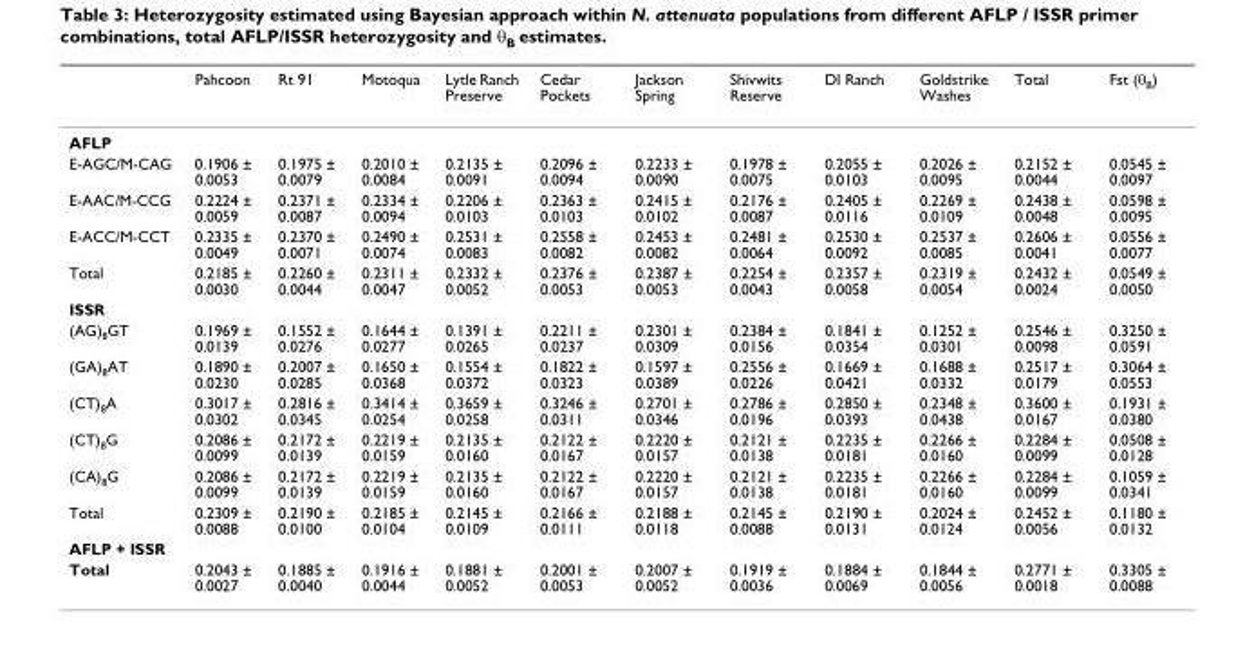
<table><thead><tr><td></td><td>Pahcoon</td><td>Rt 91</td><td>Motoqua</td><td>Lytle Ranch Preserve</td><td>Cedar Pockets</td><td>Jackson Spring</td><td>Shivwits Reserve</td><td>DI Ranch</td><td>Goldstrike Washes</td><td>Total</td><td>Fst (θ<sub>B</sub>)</td></tr></thead><tbody><tr><td colspan="12">AFLP</td></tr><tr><td>E-AGC/M-CAG</td><td>0.1906 ± 0.0053</td><td>0.1975 ± 0.0079</td><td>0.2010 ± 0.0084</td><td>0.2135 ± 0.0091</td><td>0.2096 ± 0.0094</td><td>0.2233 ± 0.0090</td><td>0.1978 ± 0.0075</td><td>0.2055 ± 0.0103</td><td>0.2026 ± 0.0095</td><td>0.2152 ± 0.0044</td><td>0.0545 ± 0.0097</td></tr><tr><td>E-AAC/M-CCG</td><td>0.2224 ± 0.0059</td><td>0.2371 ± 0.0087</td><td>0.2334 ± 0.0094</td><td>0.2206 ± 0.0103</td><td>0.2363 ± 0.0103</td><td>0.2415 ± 0.0102</td><td>0.2176 ± 0.0087</td><td>0.2405 ± 0.0116</td><td>0.2269 ± 0.0109</td><td>0.2438 ± 0.0048</td><td>0.0598 ± 0.0095</td></tr><tr><td>E-ACC/M-CCT</td><td>0.2335 ± 0.0049</td><td>0.2370 ± 0.0071</td><td>0.2490 ± 0.0074</td><td>0.2531 ± 0.0083</td><td>0.2558 ± 0.0082</td><td>0.2453 ± 0.0082</td><td>0.2481 ± 0.0064</td><td>0.2530 ± 0.0092</td><td>0.2537 ± 0.0085</td><td>0.2606 ± 0.0041</td><td>0.0556 ± 0.0077</td></tr><tr><td>Total</td><td>0.2185 ± 0.0030</td><td>0.2260 ± 0.0044</td><td>0.2311 ± 0.0047</td><td>0.2332 ± 0.0052</td><td>0.2376 ± 0.0053</td><td>0.2387 ± 0.0053</td><td>0.2254 ± 0.0043</td><td>0.2357 ± 0.0058</td><td>0.2319 ± 0.0054</td><td>0.2432 ± 0.0024</td><td>0.0549 ± 0.0050</td></tr><tr><td colspan="12">ISSR</td></tr><tr><td>(AG)<sub>8</sub>GT</td><td>0.1969 ± 0.0139</td><td>0.1552 ± 0.0276</td><td>0.1644 ± 0.0277</td><td>0.1391 ± 0.0265</td><td>0.2211 ± 0.0237</td><td>0.2301 ± 0.0309</td><td>0.2384 ± 0.0156</td><td>0.1841 ± 0.0354</td><td>0.1252 ± 0.0301</td><td>0.2546 ± 0.0098</td><td>0.3250 ± 0.0591</td></tr><tr><td>(GA)<sub>8</sub>AT</td><td>0.1890 ± 0.0230</td><td>0.2007 ± 0.0285</td><td>0.1650 ± 0.0368</td><td>0.1554 ± 0.0372</td><td>0.1822 ± 0.0323</td><td>0.1597 ± 0.0389</td><td>0.2556 ± 0.0226</td><td>0.1669 ± 0.0421</td><td>0.1688 ± 0.0332</td><td>0.2517 ± 0.0179</td><td>0.3064 ± 0.0553</td></tr><tr><td>(CT)<sub>8</sub>A</td><td>0.3017 ± 0.0302</td><td>0.2816 ± 0.0345</td><td>0.3414 ± 0.0254</td><td>0.3659 ± 0.0258</td><td>0.3246 ± 0.0311</td><td>0.2701 ± 0.0346</td><td>0.2786 ± 0.0196</td><td>0.2850 ± 0.0393</td><td>0.2348 ± 0.0438</td><td>0.3600 ± 0.0167</td><td>0.1931 ± 0.0380</td></tr><tr><td>(CT)<sub>8</sub>G</td><td>0.2086 ± 0.0099</td><td>0.2172 ± 0.0139</td><td>0.2219 ± 0.0159</td><td>0.2135 ± 0.0160</td><td>0.2122 ± 0.0167</td><td>0.2220 ± 0.0157</td><td>0.2121 ± 0.0138</td><td>0.2235 ± 0.0181</td><td>0.2266 ± 0.0160</td><td>0.2284 ± 0.0099</td><td>0.0508 ± 0.0128</td></tr><tr><td>(CA)<sub>8</sub>G</td><td>0.2086 ± 0.0099</td><td>0.2172 ± 0.0139</td><td>0.2219 ± 0.0159</td><td>0.2135 ± 0.0160</td><td>0.2122 ± 0.0167</td><td>0.2220 ± 0.0157</td><td>0.2121 ± 0.0138</td><td>0.2235 ± 0.0181</td><td>0.2266 ± 0.0160</td><td>0.2284 ± 0.0099</td><td>0.1059 ± 0.0341</td></tr><tr><td>Total</td><td>0.2309 ± 0.0088</td><td>0.2190 ± 0.0100</td><td>0.2185 ± 0.0104</td><td>0.2145 ± 0.0109</td><td>0.2166 ± 0.0111</td><td>0.2188 ± 0.0118</td><td>0.2145 ± 0.0088</td><td>0.2190 ± 0.0131</td><td>0.2024 ± 0.0124</td><td>0.2452 ± 0.0056</td><td>0.1180 ± 0.0132</td></tr><tr><td colspan="12">AFLP + ISSR</td></tr><tr><td>Total</td><td>0.2043 ± 0.0027</td><td>0.1885 ± 0.0040</td><td>0.1916 ± 0.0044</td><td>0.1881 ± 0.0052</td><td>0.2001 ± 0.0053</td><td>0.2007 ± 0.0052</td><td>0.1919 ± 0.0036</td><td>0.1884 ± 0.0069</td><td>0.1844 ± 0.0056</td><td>0.2771 ± 0.0018</td><td>0.3305 ± 0.0088</td></tr></tbody></table>